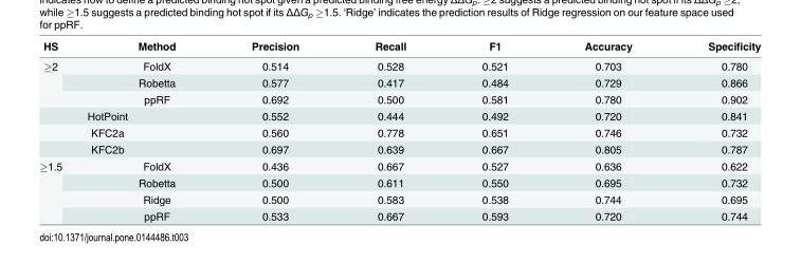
<table><thead><tr><td>HS</td><td>Method</td><td>Precision</td><td>Recall</td><td>F1</td><td>Accuracy</td><td>Specificity</td></tr></thead><tbody><tr><td rowspan="3">≥2</td><td>FoldX</td><td>0.514</td><td>0.528</td><td>0.521</td><td>0.703</td><td>0.780</td></tr><tr><td>Robetta</td><td>0.577</td><td>0.417</td><td>0.484</td><td>0.729</td><td>0.866</td></tr><tr><td>ppRF</td><td>0.692</td><td>0.500</td><td>0.581</td><td>0.780</td><td>0.902</td></tr><tr><td colspan="2">HotPoint</td><td>0.552</td><td>0.444</td><td>0.492</td><td>0.720</td><td>0.841</td></tr><tr><td colspan="2">KFC2a</td><td>0.560</td><td>0.778</td><td>0.651</td><td>0.746</td><td>0.732</td></tr><tr><td colspan="2">KFC2b</td><td>0.697</td><td>0.639</td><td>0.667</td><td>0.805</td><td>0.787</td></tr><tr><td rowspan="4">≥1.5</td><td>FoldX</td><td>0.436</td><td>0.667</td><td>0.527</td><td>0.636</td><td>0.622</td></tr><tr><td>Robetta</td><td>0.500</td><td>0.611</td><td>0.550</td><td>0.695</td><td>0.732</td></tr><tr><td>Ridge</td><td>0.500</td><td>0.583</td><td>0.538</td><td>0.744</td><td>0.695</td></tr><tr><td>ppRF</td><td>0.533</td><td>0.667</td><td>0.593</td><td>0.720</td><td>0.744</td></tr></tbody></table>